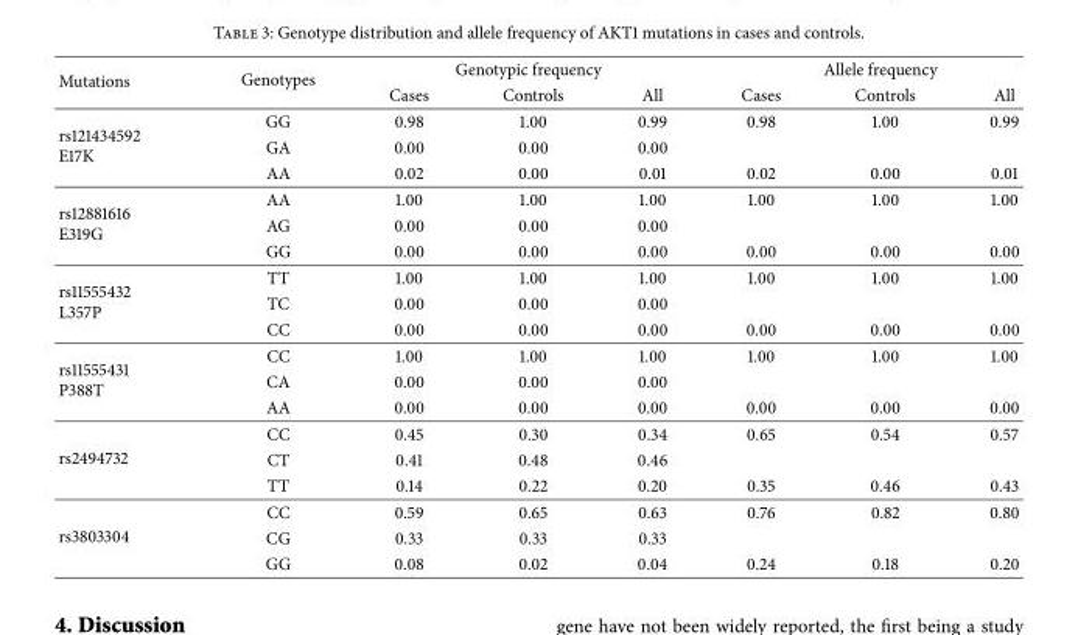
<table><thead><tr><td rowspan="2">Mutations</td><td rowspan="2">Genotypes</td><td colspan="3">Genotypic frequency</td><td colspan="3">Allele frequency</td></tr><tr><td>Cases</td><td>Controls</td><td>All</td><td>Cases</td><td>Controls</td><td>All</td></tr></thead><tbody><tr><td rowspan="3">rs121434592 E17K</td><td>GG</td><td>0.98</td><td>1.00</td><td>0.99</td><td>0.98</td><td>1.00</td><td>0.99</td></tr><tr><td>GA</td><td>0.00</td><td>0.00</td><td>0.00</td><td></td><td></td><td></td></tr><tr><td>AA</td><td>0.02</td><td>0.00</td><td>0.01</td><td>0.02</td><td>0.00</td><td>0.01</td></tr><tr><td rowspan="3">rs12881616 E319G</td><td>AA</td><td>1.00</td><td>1.00</td><td>1.00</td><td>1.00</td><td>1.00</td><td>1.00</td></tr><tr><td>AG</td><td>0.00</td><td>0.00</td><td>0.00</td><td></td><td></td><td></td></tr><tr><td>GG</td><td>0.00</td><td>0.00</td><td>0.00</td><td>0.00</td><td>0.00</td><td>0.00</td></tr><tr><td rowspan="3">rs11555432 L357P</td><td>TT</td><td>1.00</td><td>1.00</td><td>1.00</td><td>1.00</td><td>1.00</td><td>1.00</td></tr><tr><td>TC</td><td>0.00</td><td>0.00</td><td>0.00</td><td></td><td></td><td></td></tr><tr><td>CC</td><td>0.00</td><td>0.00</td><td>0.00</td><td>0.00</td><td>0.00</td><td>0.00</td></tr><tr><td rowspan="3">rs11555431 P388T</td><td>CC</td><td>1.00</td><td>1.00</td><td>1.00</td><td>1.00</td><td>1.00</td><td>1.00</td></tr><tr><td>CA</td><td>0.00</td><td>0.00</td><td>0.00</td><td></td><td></td><td></td></tr><tr><td>AA</td><td>0.00</td><td>0.00</td><td>0.00</td><td>0.00</td><td>0.00</td><td>0.00</td></tr><tr><td rowspan="3">rs2494732</td><td>CC</td><td>0.45</td><td>0.30</td><td>0.34</td><td>0.65</td><td>0.54</td><td>0.57</td></tr><tr><td>CT</td><td>0.41</td><td>0.48</td><td>0.46</td><td></td><td></td><td></td></tr><tr><td>TT</td><td>0.14</td><td>0.22</td><td>0.20</td><td>0.35</td><td>0.46</td><td>0.43</td></tr><tr><td rowspan="3">rs3803304</td><td>CC</td><td>0.59</td><td>0.65</td><td>0.63</td><td>0.76</td><td>0.82</td><td>0.80</td></tr><tr><td>CG</td><td>0.33</td><td>0.33</td><td>0.33</td><td></td><td></td><td></td></tr><tr><td>GG</td><td>0.08</td><td>0.02</td><td>0.04</td><td>0.24</td><td>0.18</td><td>0.20</td></tr></tbody></table>